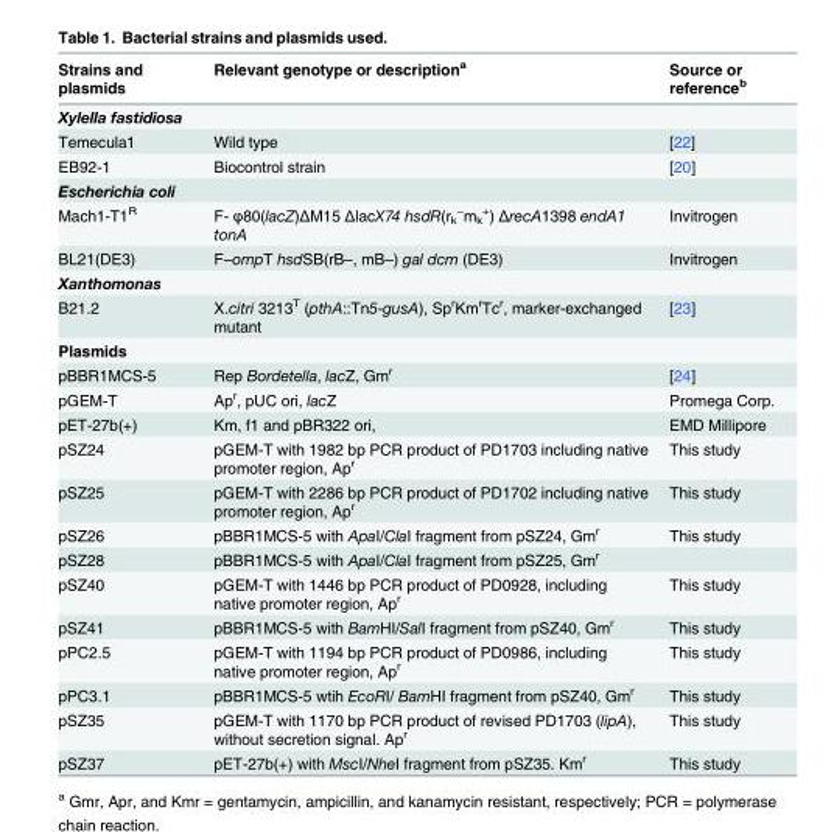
<table><thead><tr><td>Strains and plasmids</td><td>Relevant genotype or description<sup>a</sup></td><td>Source or reference<sup>b</sup></td></tr></thead><tbody><tr><td colspan="3">Xylella fastidiosa</td></tr><tr><td>Temecula1</td><td>Wild type</td><td>[22]</td></tr><tr><td>EB92-1</td><td>Biocontrol strain</td><td>[20]</td></tr><tr><td colspan="3">Escherichia coli</td></tr><tr><td>Mach1-T1<sup>R</sup></td><td>F- φ80(lacZ)ΔM15 ΔlacX74 hsdR(r<sub>k</sub> <sup>−</sup>m<sub>k</sub> <sup>+</sup>) ΔrecA1398 endA1 tonA</td><td>Invitrogen</td></tr><tr><td>BL21(DE3)</td><td>F–ompT hsdSB(rB–, mB–) gal dcm (DE3)</td><td>Invitrogen</td></tr><tr><td colspan="3">Xanthomonas</td></tr><tr><td>B21.2</td><td>X.citri 3213<sup>T</sup> (pthA::Tn5-gusA), Sp<sup>r</sup>Km<sup>r</sup>Tc<sup>r</sup>, marker-exchanged mutant</td><td>[23]</td></tr><tr><td colspan="3">Plasmids</td></tr><tr><td>pBBR1MCS-5</td><td>Rep Bordetella, lacZ, Gm<sup>r</sup></td><td>[24]</td></tr><tr><td>pGEM-T</td><td>Ap<sup>r</sup>, pUC ori, lacZ</td><td>Promega Corp.</td></tr><tr><td>pET-27b(+)</td><td>Km, f1 and pBR322 ori,</td><td>EMD Millipore</td></tr><tr><td>pSZ24</td><td>pGEM-T with 1982 bp PCR product of PD1703 including native promoter region, Ap<sup>r</sup></td><td>This study</td></tr><tr><td>pSZ25</td><td>pGEM-T with 2286 bp PCR product of PD1702 including native promoter region, Ap<sup>r</sup></td><td>This study</td></tr><tr><td>pSZ26</td><td>pBBR1MCS-5 with ApaI/ClaI fragment from pSZ24, Gm<sup>r</sup></td><td>This study</td></tr><tr><td>pSZ28</td><td>pBBR1MCS-5 with ApaI/ClaI fragment from pSZ25, Gm<sup>r</sup></td><td></td></tr><tr><td>pSZ40</td><td>pGEM-T with 1446 bp PCR product of PD0928, including native promoter region, Ap<sup>r</sup></td><td>This study</td></tr><tr><td>pSZ41</td><td>pBBR1MCS-5 with BamHI/SalI fragment from pSZ40, Gm<sup>r</sup></td><td>This study</td></tr><tr><td>pPC2.5</td><td>pGEM-T with 1194 bp PCR product of PD0986, including native promoter region, Ap<sup>r</sup></td><td>This study</td></tr><tr><td>pPC3.1</td><td>pBBR1MCS-5 wtih EcoRI/ BamHI fragment from pSZ40, Gm<sup>r</sup></td><td>This study</td></tr><tr><td>pSZ35</td><td>pGEM-T with 1170 bp PCR product of revised PD1703 (lipA), without secretion signal. Ap<sup>r</sup></td><td>This study</td></tr><tr><td>pSZ37</td><td>pET-27b(+) with MscI/NheI fragment from pSZ35. Km<sup>r</sup></td><td>This study</td></tr></tbody></table>